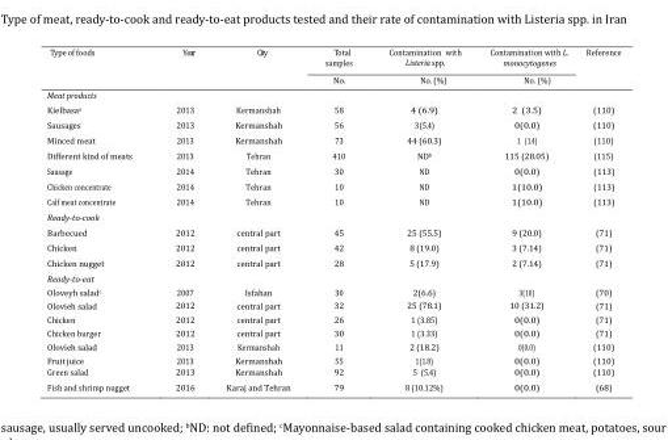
<table><thead><tr><td rowspan="2">Type of foods</td><td rowspan="2">Year</td><td rowspan="2">City</td><td rowspan="2">Total samples No.</td><td rowspan="2">Contamination with Listeria spp. No. (%)</td><td rowspan="2">Contamination with L. monocytogenes No. (%)</td><td rowspan="2">Reference</td></tr><tr></tr></thead><tbody><tr><td colspan="7">Meat products</td></tr><tr><td>Kielbasa<sup>a</sup></td><td>2013</td><td>Kermanshah</td><td>58</td><td>4 (6.9)</td><td>2 (3.5)</td><td>(110)</td></tr><tr><td>Sausages</td><td>2013</td><td>Kermanshah</td><td>56</td><td>3(5.4)</td><td>0(0.0)</td><td>(110)</td></tr><tr><td>Minced meat</td><td>2013</td><td>Kermanshah</td><td>73</td><td>44 (60.3)</td><td>1 (1.4)</td><td>(110)</td></tr><tr><td>Different kind of meats</td><td>2013</td><td>Tehran</td><td>410</td><td>ND<sup>b</sup></td><td>115 (28.05)</td><td>(115)</td></tr><tr><td>Sausage</td><td>2014</td><td>Tehran</td><td>30</td><td>ND</td><td>0(0.0)</td><td>(113)</td></tr><tr><td>Chicken concentrate</td><td>2014</td><td>Tehran</td><td>10</td><td>ND</td><td>1(10.0)</td><td>(113)</td></tr><tr><td>Calf meat concentrate</td><td>2014</td><td>Tehran</td><td>10</td><td>ND</td><td>1(10.0)</td><td>(113)</td></tr><tr><td colspan="7">Ready-to-cook</td></tr><tr><td>Barbecued</td><td>2012</td><td>central part</td><td>45</td><td>25 (55.5)</td><td>9 (20.0)</td><td>(71)</td></tr><tr><td>Chicken</td><td>2012</td><td>central part</td><td>42</td><td>8 (19.0)</td><td>3 (7.14)</td><td>(71)</td></tr><tr><td>Chicken nugget</td><td>2012</td><td>central part</td><td>28</td><td>5 (17.9)</td><td>2 (7.14)</td><td>(71)</td></tr><tr><td colspan="7">Ready-to-eat</td></tr><tr><td>Oloveyh salad<sup>c</sup></td><td>2007</td><td>Isfahan</td><td>30</td><td>2(6.6)</td><td>3(10)</td><td>(70)</td></tr><tr><td>Olovieh salad</td><td>2012</td><td>central part</td><td>32</td><td>25 (78.1)</td><td>10 (31.2)</td><td>(71)</td></tr><tr><td>Chicken</td><td>2012</td><td>central part</td><td>26</td><td>1 (3.85)</td><td>0(0.0)</td><td>(71)</td></tr><tr><td>Chicken burger</td><td>2012</td><td>central part</td><td>30</td><td>1 (3.33)</td><td>0(0.0)</td><td>(71)</td></tr><tr><td>Olovieh salad</td><td>2013</td><td>Kermanshah</td><td>11</td><td>2 (18.2)</td><td>0(0.0)</td><td>(110)</td></tr><tr><td>Fruit juice</td><td>2013</td><td>Kermanshah</td><td>55</td><td>1(1.8)</td><td>0(0.0)</td><td>(110)</td></tr><tr><td>Green salad</td><td>2013</td><td>Kermanshah</td><td>92</td><td>5 (5.4)</td><td>0(0.0)</td><td>(110)</td></tr><tr><td>Fish and shrimp nugget</td><td>2016</td><td>Karaj and Tehran</td><td>79</td><td>8 (10.12%)</td><td>0(0.0)</td><td>(68)</td></tr></tbody></table>